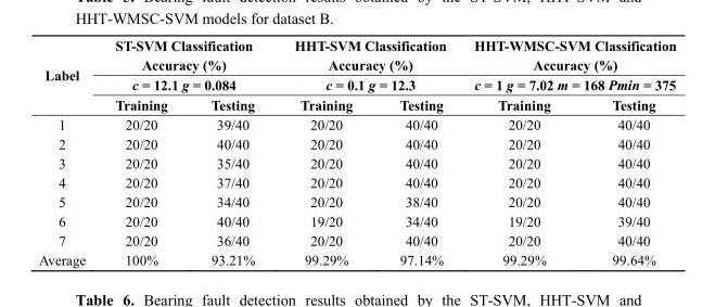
<table><thead><tr><td rowspan="3">Label</td><td rowspan="2" colspan="2">ST-SVM Classification Accuracy (%) c = 12.1 g = 0.084</td><td rowspan="2" colspan="2">HHT-SVM Classification Accuracy (%) c = 0.1 g = 12.3</td><td rowspan="2" colspan="2">HHT-WMSC-SVM Classification Accuracy (%) c = 1 g = 7.02 m = 168 Pmin = 375</td></tr><tr></tr><tr><td>Training</td><td>Testing</td><td>Training</td><td>Testing</td><td>Training</td><td>Testing</td></tr></thead><tbody><tr><td>1</td><td>20/20</td><td>39/40</td><td>20/20</td><td>40/40</td><td>20/20</td><td>40/40</td></tr><tr><td>2</td><td>20/20</td><td>40/40</td><td>20/20</td><td>40/40</td><td>20/20</td><td>40/40</td></tr><tr><td>3</td><td>20/20</td><td>35/40</td><td>20/20</td><td>40/40</td><td>20/20</td><td>40/40</td></tr><tr><td>4</td><td>20/20</td><td>37/40</td><td>20/20</td><td>40/40</td><td>20/20</td><td>40/40</td></tr><tr><td>5</td><td>20/20</td><td>34/40</td><td>20/20</td><td>38/40</td><td>20/20</td><td>40/40</td></tr><tr><td>6</td><td>20/20</td><td>40/40</td><td>19/20</td><td>34/40</td><td>19/20</td><td>39/40</td></tr><tr><td>7</td><td>20/20</td><td>36/40</td><td>20/20</td><td>40/40</td><td>20/20</td><td>40/40</td></tr><tr><td>Average</td><td>100%</td><td>93.21%</td><td>99.29%</td><td>97.14%</td><td>99.29%</td><td>99.64%</td></tr></tbody></table>